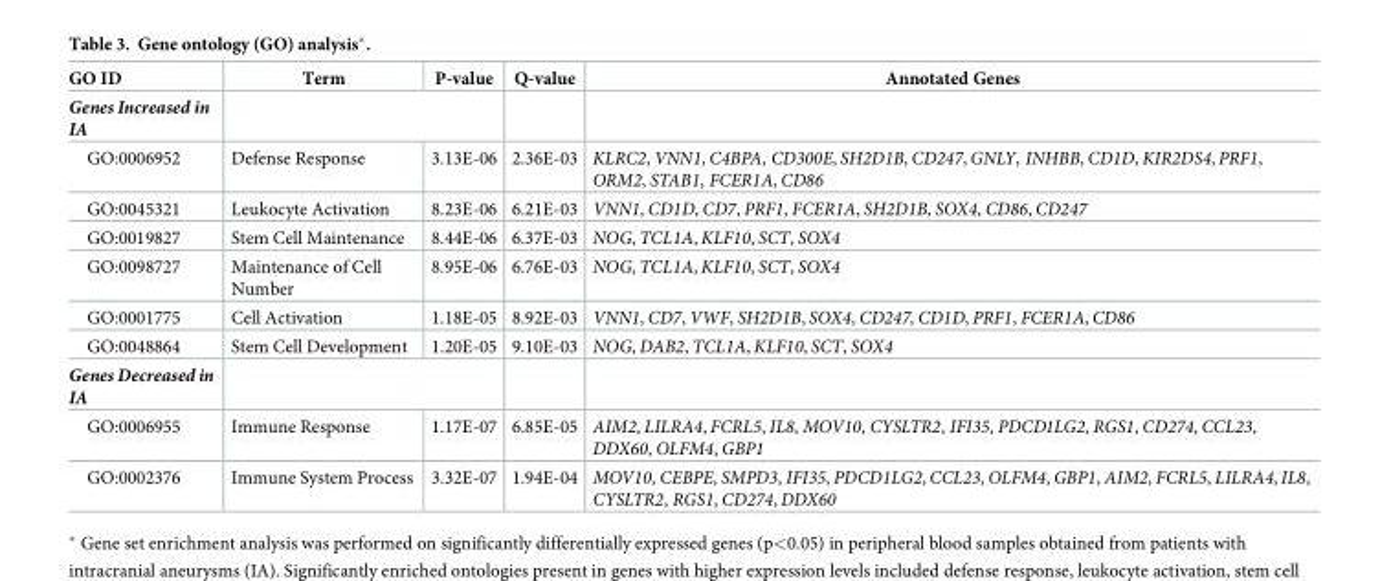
<table><thead><tr><td>GO ID</td><td>Term</td><td>P-value</td><td>Q-value</td><td>Annotated Genes</td></tr></thead><tbody><tr><td colspan="5">Genes Increased in IA</td></tr><tr><td>GO:0006952</td><td>Defense Response</td><td>3.13E-06</td><td>2.36E-03</td><td>KLRC2, VNN1, C4BPA, CD300E, SH2D1B, CD247, GNLY, INHBB, CD1D, KIR2DS4, PRF1, ORM2, STAB1, FCER1A, CD86</td></tr><tr><td>GO:0045321</td><td>Leukocyte Activation</td><td>8.23E-06</td><td>6.21E-03</td><td>VNN1, CD1D, CD7, PRF1, FCER1A, SH2D1B, SOX4, CD86, CD247</td></tr><tr><td>GO:0019827</td><td>Stem Cell Maintenance</td><td>8.44E-06</td><td>6.37E-03</td><td>NOG, TCL1A, KLF10, SCT, SOX4</td></tr><tr><td>GO:0098727</td><td>Maintenance of Cell Number</td><td>8.95E-06</td><td>6.76E-03</td><td>NOG, TCL1A, KLF10, SCT, SOX4</td></tr><tr><td>GO:0001775</td><td>Cell Activation</td><td>1.18E-05</td><td>8.92E-03</td><td>VNN1, CD7, VWF, SH2D1B, SOX4, CD247, CD1D, PRF1, FCER1A, CD86</td></tr><tr><td>GO:0048864</td><td>Stem Cell Development</td><td>1.20E-05</td><td>9.10E-03</td><td>NOG, DAB2, TCL1A, KLF10, SCT, SOX4</td></tr><tr><td colspan="5">Genes Decreased in IA</td></tr><tr><td>GO:0006955</td><td>Immune Response</td><td>1.17E-07</td><td>6.85E-05</td><td>AIM2, LILRA4, FCRL5, IL8, MOV10, CYSLTR2, IFI35, PDCD1LG2, RGS1, CD274, CCL23, DDX60, OLFM4, GBP1</td></tr><tr><td>GO:0002376</td><td>Immune System Process</td><td>3.32E-07</td><td>1.94E-04</td><td>MOV10, CEBPE, SMPD3, IFI35, PDCD1LG2, CCL23, OLFM4, GBP1, AIM2, FCRL5, LILRA4, IL8, CYSLTR2, RGS1, CD274, DDX60</td></tr></tbody></table>